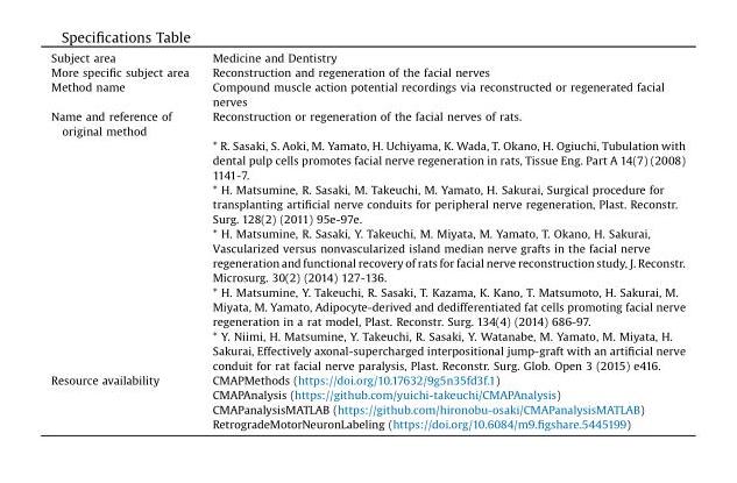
<table><tbody><tr><td>Subject area</td><td>Medicine and Dentistry</td></tr><tr><td>More specific subject area</td><td>Reconstruction and regeneration of the facial nerves</td></tr><tr><td>Method name</td><td>Compound muscle action potential recordings via reconstructed or regenerated facial nerves</td></tr><tr><td rowspan="6">Name and reference of original method</td><td>Reconstruction or regeneration of the facial nerves of rats.</td></tr><tr><td>* R. Sasaki, S. Aoki, M. Yamato, H. Uchiyama, K. Wada, T. Okano, H. Ogiuchi, Tubulation with dental pulp cells promotes facial nerve regeneration in rats, Tissue Eng. Part A 14(7) (2008) 1141-7.</td></tr><tr><td>* H. Matsumine, R. Sasaki, M. Takeuchi, M. Yamato, H. Sakurai, Surgical procedure for transplanting artificial nerve conduits for peripheral nerve regeneration, Plast. Reconstr. Surg. 128(2) (2011) 95e-97e.</td></tr><tr><td>* H. Matsumine, R. Sasaki, Y. Takeuchi, M. Miyata, M. Yamato, T. Okano, H. Sakurai, Vascularized versus nonvascularized island median nerve grafts in the facial nerve regeneration and functional recovery of rats for facial nerve reconstruction study, J. Reconstr. Microsurg. 30(2) (2014) 127-136.</td></tr><tr><td>* H. Matsumine, Y. Takeuchi, R. Sasaki, T. Kazama, K. Kano, T. Matsumoto, H. Sakurai, M. Miyata, M. Yamato, Adipocyte-derived and dedifferentiated fat cells promoting facial nerve regeneration in a rat model, Plast. Reconstr. Surg. 134(4) (2014) 686-97.</td></tr><tr><td>* Y. Niimi, H. Matsumine, Y. Takeuchi, R. Sasaki, Y. Watanabe, M. Yamato, M. Miyata, H. Sakurai, Effectively axonal-supercharged interpositional jump-graft with an artificial nerve conduit for rat facial nerve paralysis, Plast. Reconstr. Surg. Glob. Open 3 (2015) e416.</td></tr><tr><td rowspan="4">Resource availability</td><td>CMAPMethods (https://doi.org/10.17632/9g5n35fd3f.1)</td></tr><tr><td>CMAPAnalysis (https://github.com/yuichi-takeuchi/CMAPAnalysis)</td></tr><tr><td>CMAPanalysisMATLAB (https://github.com/hironobu-osaki/CMAPanalysisMATLAB)</td></tr><tr><td>RetrogradeMotorNeuronLabeling (https://doi.org/10.6084/m9.figshare.5445199)</td></tr></tbody></table>